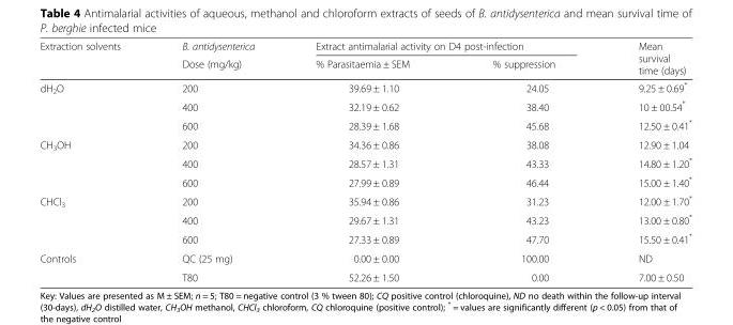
<table><thead><tr><td rowspan="2">Extraction solvents</td><td rowspan="2">B. antidysenterica Dose (mg/kg)</td><td colspan="2">Extract antimalarial activity on D4 post-infection</td><td rowspan="2">Mean survival time (days)</td></tr><tr><td>% Parasitaemia ± SEM</td><td>% suppression</td></tr></thead><tbody><tr><td rowspan="3">dH<sub>2</sub>O</td><td>200</td><td>39.69 ± 1.10</td><td>24.05</td><td>9.25 ± 0.69*</td></tr><tr><td>400</td><td>32.19 ± 0.62</td><td>38.40</td><td>10 ± 00.54*</td></tr><tr><td>600</td><td>28.39 ± 1.68</td><td>45.68</td><td>12.50 ± 0.41*</td></tr><tr><td rowspan="3">CH<sub>3</sub>OH</td><td>200</td><td>34.36 ± 0.86</td><td>38.08</td><td>12.90 ± 1.04</td></tr><tr><td>400</td><td>28.57 ± 1.31</td><td>43.33</td><td>14.80 ± 1.20*</td></tr><tr><td>600</td><td>27.99 ± 0.89</td><td>46.44</td><td>15.00 ± 1.40*</td></tr><tr><td rowspan="3">CHCl<sub>3</sub></td><td>200</td><td>35.94 ± 0.86</td><td>31.23</td><td>12.00 ± 1.70*</td></tr><tr><td>400</td><td>29.67 ± 1.31</td><td>43.23</td><td>13.00 ± 0.80*</td></tr><tr><td>600</td><td>27.33 ± 0.89</td><td>47.70</td><td>15.50 ± 0.41*</td></tr><tr><td rowspan="2">Controls</td><td>QC (25 mg)</td><td>0.00 ± 0.00</td><td>100.00</td><td>ND</td></tr><tr><td>T80</td><td>52.26 ± 1.50</td><td>0.00</td><td>7.00 ± 0.50</td></tr></tbody></table>